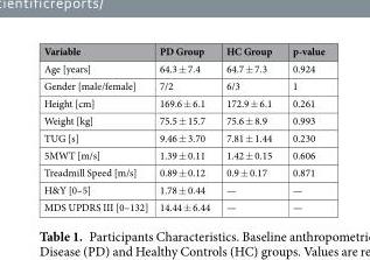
<table><thead><tr><td>Variable</td><td>PD Group</td><td>HC Group</td><td>p-value</td></tr></thead><tbody><tr><td>Age [years]</td><td>64.3 ± 7.4</td><td>64.7 ± 7.3</td><td>0.924</td></tr><tr><td>Gender [male/female]</td><td>7/2</td><td>6/3</td><td>1</td></tr><tr><td>Height [cm]</td><td>169.6 ± 6.1</td><td>172.9 ± 6.1</td><td>0.261</td></tr><tr><td>Weight [kg]</td><td>75.5 ± 15.7</td><td>75.6 ± 8.9</td><td>0.993</td></tr><tr><td>TUG [s]</td><td>9.46 ± 3.70</td><td>7.81 ± 1.44</td><td>0.230</td></tr><tr><td>5MWT [m/s]</td><td>1.39 ± 0.11</td><td>1.42 ± 0.15</td><td>0.606</td></tr><tr><td>Treadmill Speed [m/s]</td><td>0.89 ± 0.12</td><td>0.9 ± 0.17</td><td>0.871</td></tr><tr><td>H&amp;Y [0–5]</td><td>1.78 ± 0.44</td><td>—</td><td>—</td></tr><tr><td>MDS UPDRS III [0–132]</td><td>14.44 ± 6.44</td><td>—</td><td>—</td></tr></tbody></table>